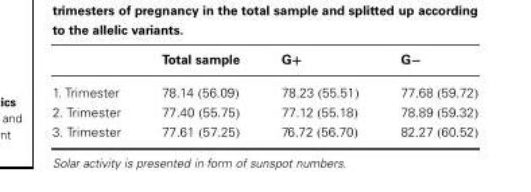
<table><thead><tr><td></td><td>Total sample</td><td>G+</td><td>G−</td></tr></thead><tbody><tr><td>1. Trimester</td><td>78.14 (56.09)</td><td>78.23 (55.51)</td><td>77.68 (59.72)</td></tr><tr><td>2. Trimester</td><td>77.40 (55.75)</td><td>77.12 (55.18)</td><td>78.89 (59.32)</td></tr><tr><td>3. Trimester</td><td>77.61 (57.25)</td><td>76.72 (56.70)</td><td>82.27 (60.52)</td></tr></tbody></table>